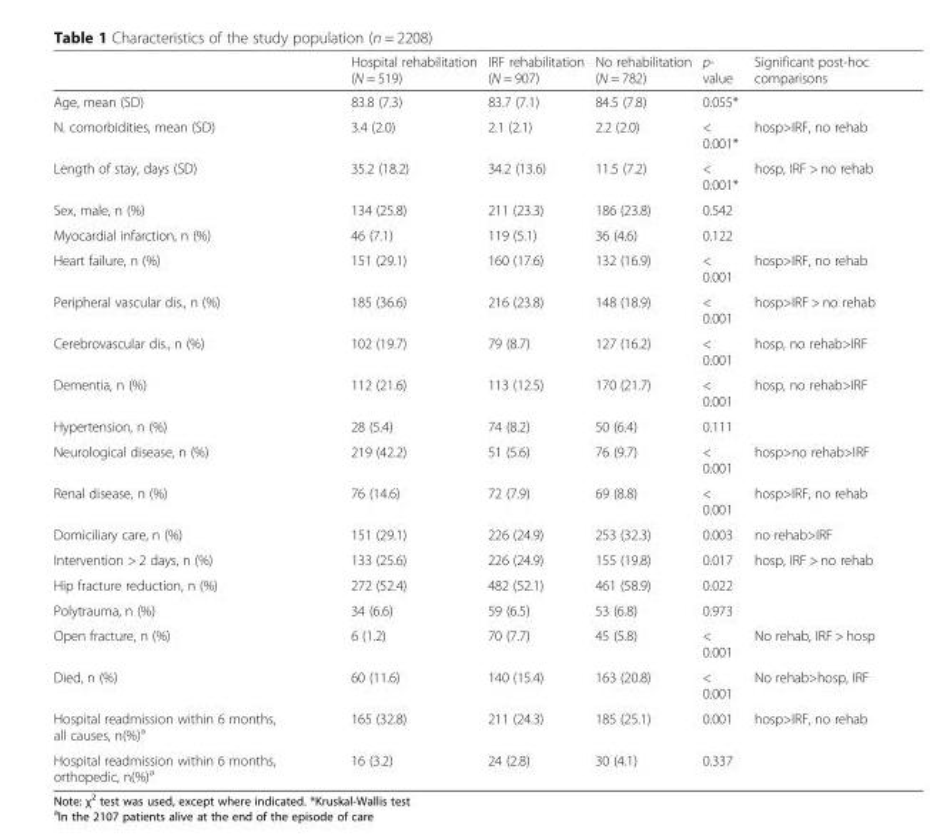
<table><thead><tr><td></td><td>Hospital rehabilitation (N = 519)</td><td>IRF rehabilitation (N = 907)</td><td>No rehabilitation (N = 782)</td><td>p- value</td><td>Significant post-hoc comparisons</td></tr></thead><tbody><tr><td>Age, mean (SD)</td><td>83.8 (7.3)</td><td>83.7 (7.1)</td><td>84.5 (7.8)</td><td>0.055*</td><td></td></tr><tr><td>N. comorbidities, mean (SD)</td><td>3.4 (2.0)</td><td>2.1 (2.1)</td><td>2.2 (2.0)</td><td>&lt; 0.001*</td><td>hosp&gt;IRF, no rehab</td></tr><tr><td>Length of stay, days (SD)</td><td>35.2 (18.2)</td><td>34.2 (13.6)</td><td>11.5 (7.2)</td><td>&lt; 0.001*</td><td>hosp, IRF &gt; no rehab</td></tr><tr><td>Sex, male, n (%)</td><td>134 (25.8)</td><td>211 (23.3)</td><td>186 (23.8)</td><td>0.542</td><td></td></tr><tr><td>Myocardial infarction, n (%)</td><td>46 (7.1)</td><td>119 (5.1)</td><td>36 (4.6)</td><td>0.122</td><td></td></tr><tr><td>Heart failure, n (%)</td><td>151 (29.1)</td><td>160 (17.6)</td><td>132 (16.9)</td><td>&lt; 0.001</td><td>hosp&gt;IRF, no rehab</td></tr><tr><td>Peripheral vascular dis., n (%)</td><td>185 (36.6)</td><td>216 (23.8)</td><td>148 (18.9)</td><td>&lt; 0.001</td><td>hosp&gt;IRF &gt; no rehab</td></tr><tr><td>Cerebrovascular dis., n (%)</td><td>102 (19.7)</td><td>79 (8.7)</td><td>127 (16.2)</td><td>&lt; 0.001</td><td>hosp, no rehab&gt;IRF</td></tr><tr><td>Dementia, n (%)</td><td>112 (21.6)</td><td>113 (12.5)</td><td>170 (21.7)</td><td>&lt; 0.001</td><td>hosp, no rehab&gt;IRF</td></tr><tr><td>Hypertension, n (%)</td><td>28 (5.4)</td><td>74 (8.2)</td><td>50 (6.4)</td><td>0.111</td><td></td></tr><tr><td>Neurological disease, n (%)</td><td>219 (42.2)</td><td>51 (5.6)</td><td>76 (9.7)</td><td>&lt; 0.001</td><td>hosp&gt;no rehab&gt;IRF</td></tr><tr><td>Renal disease, n (%)</td><td>76 (14.6)</td><td>72 (7.9)</td><td>69 (8.8)</td><td>&lt; 0.001</td><td>hosp&gt;IRF, no rehab</td></tr><tr><td>Domiciliary care, n (%)</td><td>151 (29.1)</td><td>226 (24.9)</td><td>253 (32.3)</td><td>0.003</td><td>no rehab&gt;IRF</td></tr><tr><td>Intervention &gt; 2 days, n (%)</td><td>133 (25.6)</td><td>226 (24.9)</td><td>155 (19.8)</td><td>0.017</td><td>hosp, IRF &gt; no rehab</td></tr><tr><td>Hip fracture reduction, n (%)</td><td>272 (52.4)</td><td>482 (52.1)</td><td>461 (58.9)</td><td>0.022</td><td></td></tr><tr><td>Polytrauma, n (%)</td><td>34 (6.6)</td><td>59 (6.5)</td><td>53 (6.8)</td><td>0.973</td><td></td></tr><tr><td>Open fracture, n (%)</td><td>6 (1.2)</td><td>70 (7.7)</td><td>45 (5.8)</td><td>&lt; 0.001</td><td>No rehab, IRF &gt; hosp</td></tr><tr><td>Died, n (%)</td><td>60 (11.6)</td><td>140 (15.4)</td><td>163 (20.8)</td><td>&lt; 0.001</td><td>No rehab&gt;hosp, IRF</td></tr><tr><td>Hospital readmission within 6 months, all causes, n(%)<sup>a</sup></td><td>165 (32.8)</td><td>211 (24.3)</td><td>185 (25.1)</td><td>0.001</td><td>hosp&gt;IRF, no rehab</td></tr><tr><td>Hospital readmission within 6 months, orthopedic, n(%)<sup>a</sup></td><td>16 (3.2)</td><td>24 (2.8)</td><td>30 (4.1)</td><td>0.337</td><td></td></tr></tbody></table>